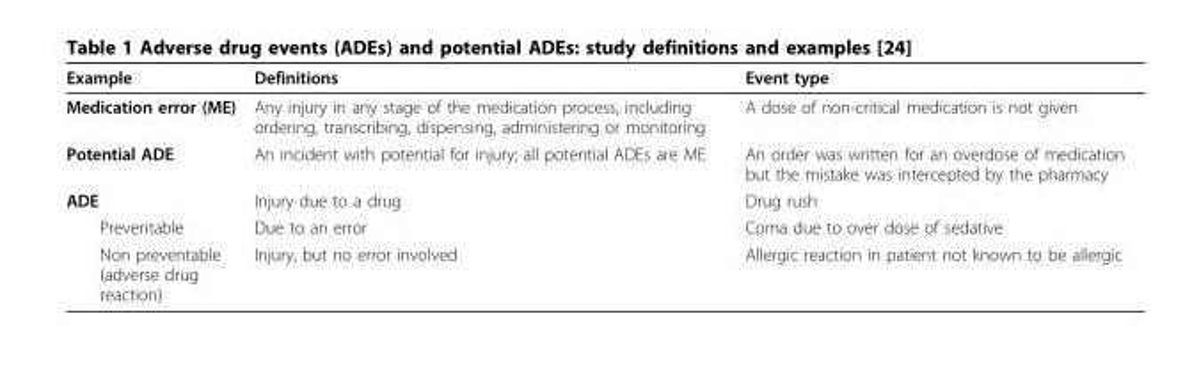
<table><thead><tr><td>Example</td><td>Definitions</td><td>Event type</td></tr></thead><tbody><tr><td>Medication error (ME)</td><td>Any injury in any stage of the medication process, including ordering, transcribing, dispensing, administering or monitoring</td><td>A dose of non-critical medication is not given</td></tr><tr><td>Potential ADE</td><td>An incident with potential for injury; all potential ADEs are ME</td><td>An order was written for an overdose of medication but the mistake was intercepted by the pharmacy</td></tr><tr><td>ADE</td><td>Injury due to a drug</td><td>Drug rush</td></tr><tr><td>Preventable</td><td>Due to an error</td><td>Coma due to over dose of sedative</td></tr><tr><td>Non preventable (adverse drug reaction)</td><td>Injury, but no error involved</td><td>Allergic reaction in patient not known to be allergic</td></tr></tbody></table>